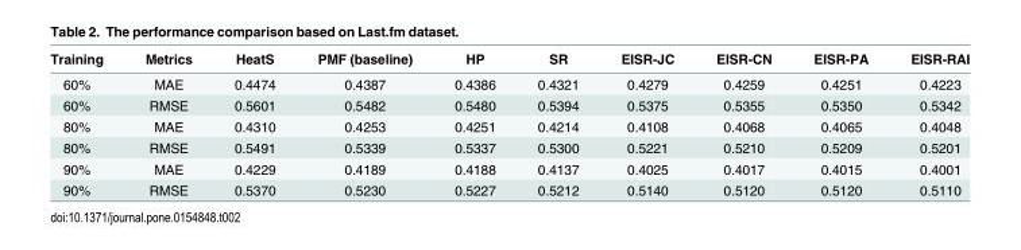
<table><thead><tr><td>Training</td><td>Metrics</td><td>HeatS</td><td>PMF (baseline)</td><td>HP</td><td>SR</td><td>EISR-JC</td><td>EISR-CN</td><td>EISR-PA</td><td>EISR-RAI</td></tr></thead><tbody><tr><td>60%</td><td>MAE</td><td>0.4474</td><td>0.4387</td><td>0.4386</td><td>0.4321</td><td>0.4279</td><td>0.4259</td><td>0.4251</td><td>0.4223</td></tr><tr><td>60%</td><td>RMSE</td><td>0.5601</td><td>0.5482</td><td>0.5480</td><td>0.5394</td><td>0.5375</td><td>0.5355</td><td>0.5350</td><td>0.5342</td></tr><tr><td>80%</td><td>MAE</td><td>0.4310</td><td>0.4253</td><td>0.4251</td><td>0.4214</td><td>0.4108</td><td>0.4068</td><td>0.4065</td><td>0.4048</td></tr><tr><td>80%</td><td>RMSE</td><td>0.5491</td><td>0.5339</td><td>0.5337</td><td>0.5300</td><td>0.5221</td><td>0.5210</td><td>0.5209</td><td>0.5201</td></tr><tr><td>90%</td><td>MAE</td><td>0.4229</td><td>0.4189</td><td>0.4188</td><td>0.4137</td><td>0.4025</td><td>0.4017</td><td>0.4015</td><td>0.4001</td></tr><tr><td>90%</td><td>RMSE</td><td>0.5370</td><td>0.5230</td><td>0.5227</td><td>0.5212</td><td>0.5140</td><td>0.5120</td><td>0.5120</td><td>0.5110</td></tr></tbody></table>